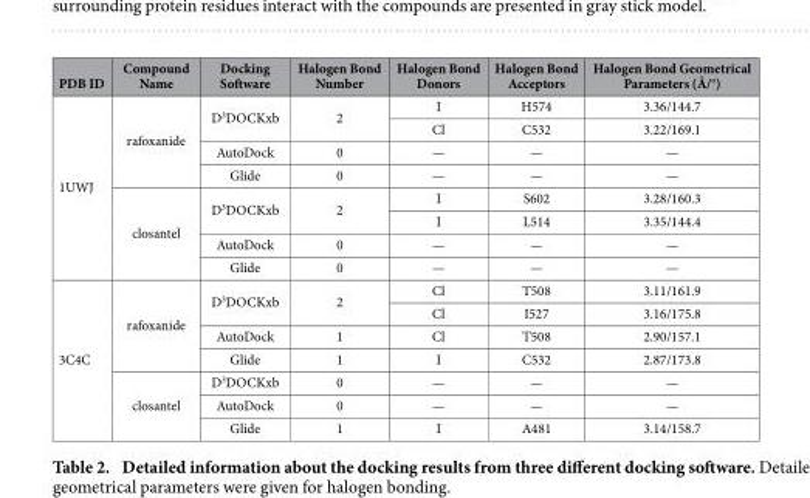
<table><thead><tr><td>PDB ID</td><td>Compound Name</td><td>Docking Software</td><td>Halogen Bond Number</td><td>Halogen Bond Donors</td><td>Halogen Bond Acceptors</td><td>Halogen Bond Geometrical Parameters (Å/°)</td></tr></thead><tbody><tr><td rowspan="8">1UWJ</td><td rowspan="4">rafoxanide</td><td rowspan="2">D<sup>3</sup>DOCKxb</td><td rowspan="2">2</td><td>I</td><td>H574</td><td>3.36/144.7</td></tr><tr><td>Cl</td><td>C532</td><td>3.22/169.1</td></tr><tr><td>AutoDock</td><td>0</td><td>—</td><td>—</td><td>—</td></tr><tr><td>Glide</td><td>0</td><td>—</td><td>—</td><td>—</td></tr><tr><td rowspan="4">closantel</td><td rowspan="2">D<sup>3</sup>DOCKxb</td><td rowspan="2">2</td><td>I</td><td>S602</td><td>3.28/160.3</td></tr><tr><td>I</td><td>L514</td><td>3.35/144.4</td></tr><tr><td>AutoDock</td><td>0</td><td>—</td><td>—</td><td>—</td></tr><tr><td>Glide</td><td>0</td><td>—</td><td>—</td><td>—</td></tr><tr><td rowspan="7">3C4C</td><td rowspan="4">rafoxanide</td><td rowspan="2">D<sup>3</sup>DOCKxb</td><td rowspan="2">2</td><td>Cl</td><td>T508</td><td>3.11/161.9</td></tr><tr><td>Cl</td><td>I527</td><td>3.16/175.8</td></tr><tr><td>AutoDock</td><td>1</td><td>Cl</td><td>T508</td><td>2.90/157.1</td></tr><tr><td>Glide</td><td>1</td><td>I</td><td>C532</td><td>2.87/173.8</td></tr><tr><td rowspan="3">closantel</td><td>D<sup>3</sup>DOCKxb</td><td>0</td><td>—</td><td>—</td><td>—</td></tr><tr><td>AutoDock</td><td>0</td><td>—</td><td>—</td><td>—</td></tr><tr><td>Glide</td><td>1</td><td>I</td><td>A481</td><td>3.14/158.7</td></tr></tbody></table>